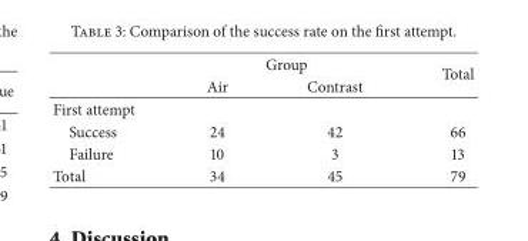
<table><thead><tr><td rowspan="2"></td><td colspan="2">Group</td><td rowspan="2">Total</td></tr><tr><td>Air</td><td>Contrast</td></tr></thead><tbody><tr><td colspan="4">First attempt</td></tr><tr><td>Success</td><td>24</td><td>42</td><td>66</td></tr><tr><td>Failure</td><td>10</td><td>3</td><td>13</td></tr><tr><td>Total</td><td>34</td><td>45</td><td>79</td></tr></tbody></table>